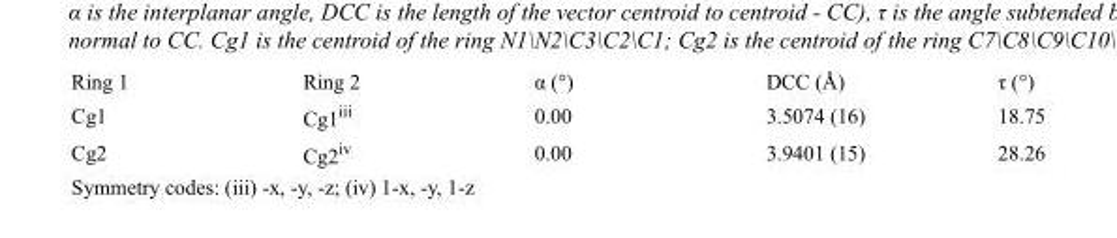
<table><tbody><tr><td>Ring 1</td><td>Ring 2</td><td>α (°)</td><td>DCC (Å)</td><td>τ (°)</td></tr><tr><td>Cg1</td><td>Cg1<sup>iii</sup></td><td>0.00</td><td>3.5074 (16)</td><td>18.75</td></tr><tr><td>Cg2</td><td>Cg2<sup>iv</sup></td><td>0.00</td><td>3.9401 (15)</td><td>28.26</td></tr></tbody></table>